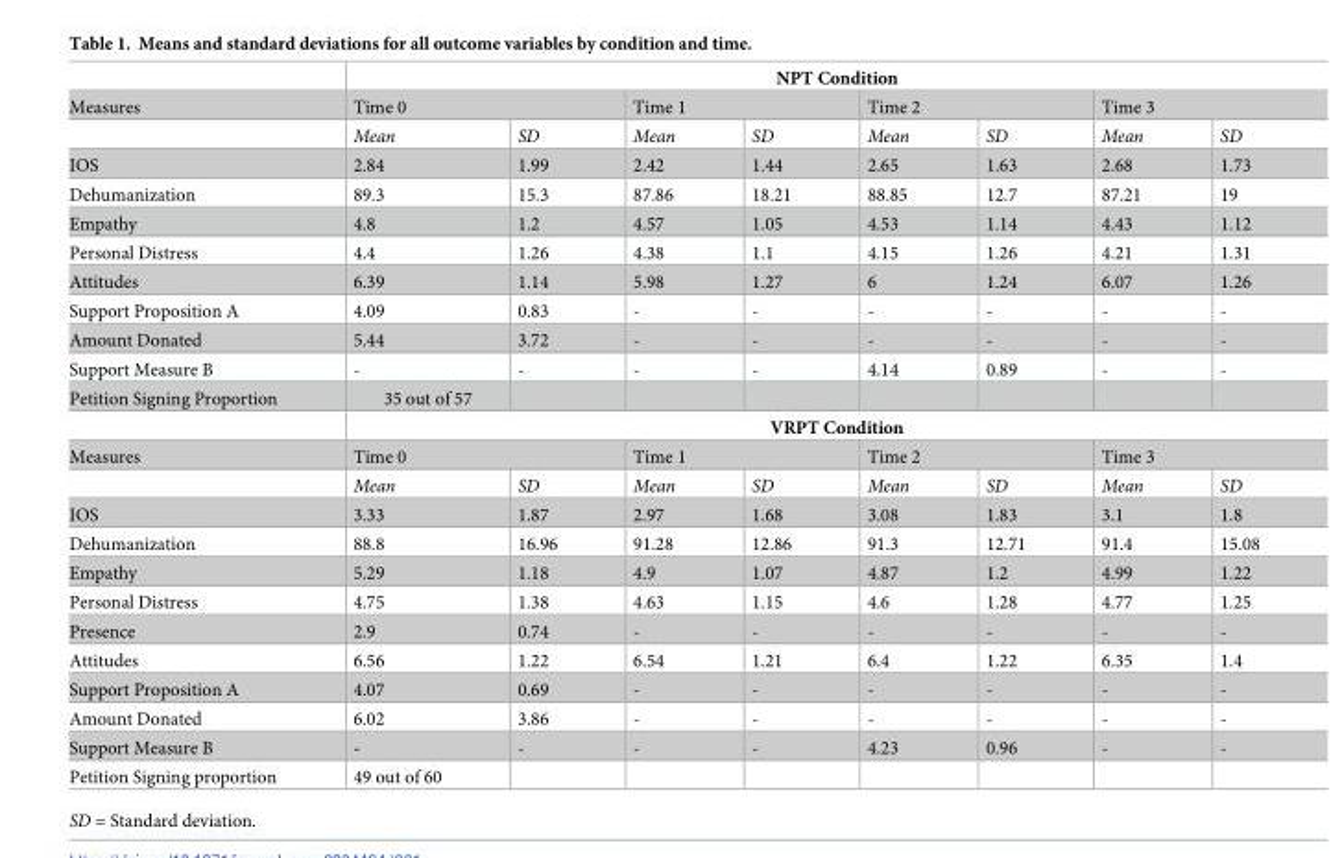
<table><thead><tr><td rowspan="3">Measures</td><td colspan="8">NPT Condition</td></tr><tr><td colspan="2">Time 0</td><td colspan="2">Time 1</td><td colspan="2">Time 2</td><td colspan="2">Time 3</td></tr><tr><td>Mean</td><td>SD</td><td>Mean</td><td>SD</td><td>Mean</td><td>SD</td><td>Mean</td><td>SD</td></tr></thead><tbody><tr><td>IOS</td><td>2.84</td><td>1.99</td><td>2.42</td><td>1.44</td><td>2.65</td><td>1.63</td><td>2.68</td><td>1.73</td></tr><tr><td>Dehumanization</td><td>89.3</td><td>15.3</td><td>87.86</td><td>18.21</td><td>88.85</td><td>12.7</td><td>87.21</td><td>19</td></tr><tr><td>Empathy</td><td>4.8</td><td>1.2</td><td>4.57</td><td>1.05</td><td>4.53</td><td>1.14</td><td>4.43</td><td>1.12</td></tr><tr><td>Personal Distress</td><td>4.4</td><td>1.26</td><td>4.38</td><td>1.1</td><td>4.15</td><td>1.26</td><td>4.21</td><td>1.31</td></tr><tr><td>Attitudes</td><td>6.39</td><td>1.14</td><td>5.98</td><td>1.27</td><td>6</td><td>1.24</td><td>6.07</td><td>1.26</td></tr><tr><td>Support Proposition A</td><td>4.09</td><td>0.83</td><td>-</td><td>-</td><td>-</td><td>-</td><td>-</td><td>-</td></tr><tr><td>Amount Donated</td><td>5.44</td><td>3.72</td><td>-</td><td>-</td><td>-</td><td>-</td><td>-</td><td>-</td></tr><tr><td>Support Measure B</td><td>-</td><td>-</td><td>-</td><td>-</td><td>4.14</td><td>0.89</td><td>-</td><td>-</td></tr><tr><td rowspan="2">Petition Signing Proportion</td><td>35 out of 57</td><td></td><td></td><td></td><td></td><td></td><td></td><td></td></tr><tr><td colspan="8">VRPT Condition</td></tr><tr><td rowspan="2">Measures</td><td colspan="2">Time 0</td><td colspan="2">Time 1</td><td colspan="2">Time 2</td><td colspan="2">Time 3</td></tr><tr><td>Mean</td><td>SD</td><td>Mean</td><td>SD</td><td>Mean</td><td>SD</td><td>Mean</td><td>SD</td></tr><tr><td>IOS</td><td>3.33</td><td>1.87</td><td>2.97</td><td>1.68</td><td>3.08</td><td>1.83</td><td>3.1</td><td>1.8</td></tr><tr><td>Dehumanization</td><td>88.8</td><td>16.96</td><td>91.28</td><td>12.86</td><td>91.3</td><td>12.71</td><td>91.4</td><td>15.08</td></tr><tr><td>Empathy</td><td>5.29</td><td>1.18</td><td>4.9</td><td>1.07</td><td>4.87</td><td>1.2</td><td>4.99</td><td>1.22</td></tr><tr><td>Personal Distress</td><td>4.75</td><td>1.38</td><td>4.63</td><td>1.15</td><td>4.6</td><td>1.28</td><td>4.77</td><td>1.25</td></tr><tr><td>Presence</td><td>2.9</td><td>0.74</td><td>-</td><td>-</td><td>-</td><td>-</td><td>-</td><td>-</td></tr><tr><td>Attitudes</td><td>6.56</td><td>1.22</td><td>6.54</td><td>1.21</td><td>6.4</td><td>1.22</td><td>6.35</td><td>1.4</td></tr><tr><td>Support Proposition A</td><td>4.07</td><td>0.69</td><td>-</td><td>-</td><td>-</td><td>-</td><td>-</td><td>-</td></tr><tr><td>Amount Donated</td><td>6.02</td><td>3.86</td><td>-</td><td>-</td><td>-</td><td>-</td><td>-</td><td>-</td></tr><tr><td>Support Measure B</td><td>-</td><td>-</td><td>-</td><td>-</td><td>4.23</td><td>0.96</td><td>-</td><td>-</td></tr><tr><td>Petition Signing proportion</td><td>49 out of 60</td><td></td><td></td><td></td><td></td><td></td><td></td><td></td></tr></tbody></table>